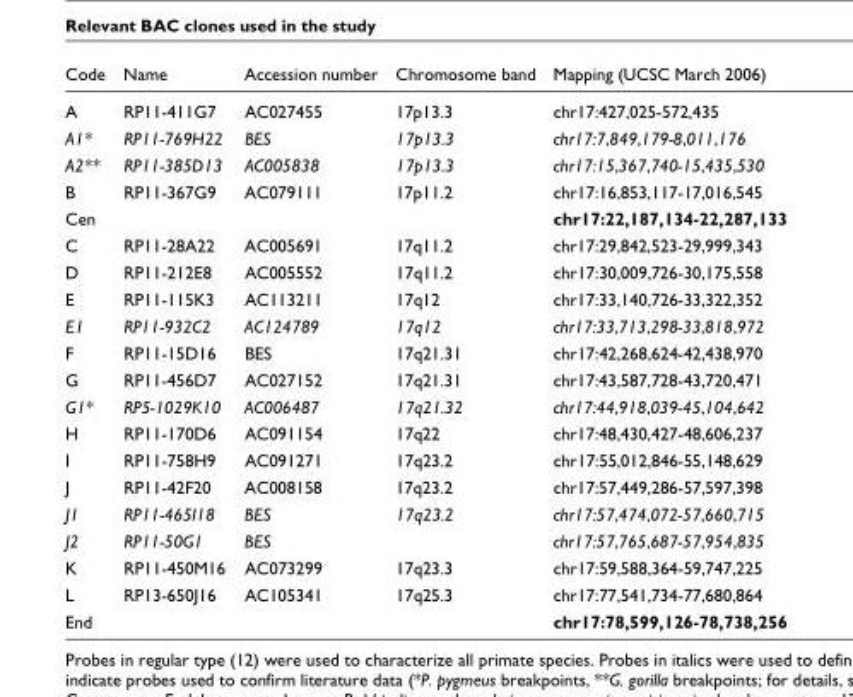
<table><thead><tr><td>Code</td><td>Name</td><td>Accession number</td><td>Chromosome band</td><td>Mapping (UCSC March 2006)</td></tr></thead><tbody><tr><td>A</td><td>RP11-411G7</td><td>AC027455</td><td>17p13.3</td><td>chr17:427,025-572,435</td></tr><tr><td>A1*</td><td>RP11-769H22</td><td>BES</td><td>17p13.3</td><td>chr17:7,849,179-8,011,176</td></tr><tr><td>A2**</td><td>RP11-385D13</td><td>AC005838</td><td>17p13.3</td><td>chr17:15,367,740-15,435,530</td></tr><tr><td>B</td><td>RP11-367G9</td><td>AC079111</td><td>17p11.2</td><td>chr17:16,853,117-17,016,545</td></tr><tr><td>Cen</td><td></td><td></td><td></td><td>chr17:22,187,134-22,287,133</td></tr><tr><td>C</td><td>RP11-28A22</td><td>AC005691</td><td>17q11.2</td><td>chr17:29,842,523-29,999,343</td></tr><tr><td>D</td><td>RP11-212E8</td><td>AC005552</td><td>17q11.2</td><td>chr17:30,009,726-30,175,558</td></tr><tr><td>E</td><td>RP11-115K3</td><td>AC113211</td><td>17q12</td><td>chr17:33,140,726-33,322,352</td></tr><tr><td>E1</td><td>RP11-932C2</td><td>AC124789</td><td>17q12</td><td>chr17:33,713,298-33,818,972</td></tr><tr><td>F</td><td>RP11-15D16</td><td>BES</td><td>17q21.31</td><td>chr17:42,268,624-42,438,970</td></tr><tr><td>G</td><td>RP11-456D7</td><td>AC027152</td><td>17q21.31</td><td>chr17:43,587,728-43,720,471</td></tr><tr><td>G1*</td><td>RP5-1029K10</td><td>AC006487</td><td>17q21.32</td><td>chr17:44,918,039-45,104,642</td></tr><tr><td>H</td><td>RP11-170D6</td><td>AC091154</td><td>17q22</td><td>chr17:48,430,427-48,606,237</td></tr><tr><td>I</td><td>RP11-758H9</td><td>AC091271</td><td>17q23.2</td><td>chr17:55,012,846-55,148,629</td></tr><tr><td>J</td><td>RP11-42F20</td><td>AC008158</td><td>17q23.2</td><td>chr17:57,449,286-57,597,398</td></tr><tr><td>J1</td><td>RP11-465I18</td><td>BES</td><td>17q23.2</td><td>chr17:57,474,072-57,660,715</td></tr><tr><td>J2</td><td>RP11-50G1</td><td>BES</td><td></td><td>chr17:57,765,687-57,954,835</td></tr><tr><td>K</td><td>RP11-450M16</td><td>AC073299</td><td>17q23.3</td><td>chr17:59,588,364-59,747,225</td></tr><tr><td>L</td><td>RP13-650J16</td><td>AC105341</td><td>17q25.3</td><td>chr17:77,541,734-77,680,864</td></tr><tr><td>End</td><td></td><td></td><td></td><td>chr17:78,599,126-78,738,256</td></tr></tbody></table>